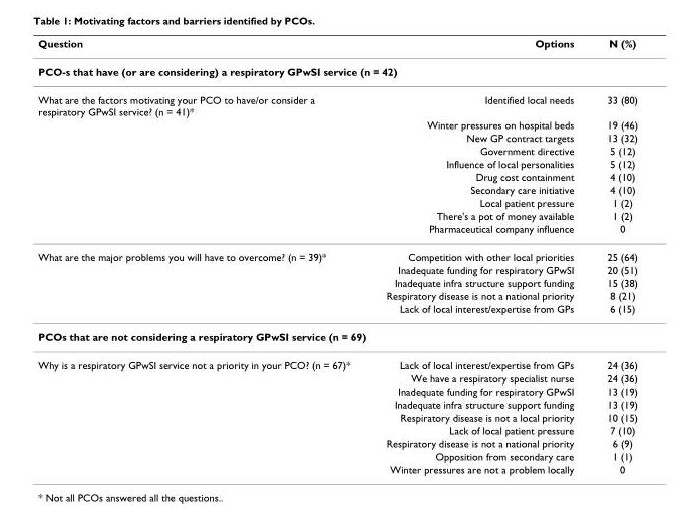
<table><thead><tr><td>Question</td><td>Options</td><td>N (%)</td></tr></thead><tbody><tr><td colspan="3">PCO-s that have (or are considering) a respiratory GPwSI service (n = 42)</td></tr><tr><td rowspan="10">What are the factors motivating your PCO to have/or consider a respiratory GPwSI service? (n = 41)*</td><td>Identified local needs</td><td>33 (80)</td></tr><tr><td>Winter pressures on hospital beds</td><td>19 (46)</td></tr><tr><td>New GP contract targets</td><td>13 (32)</td></tr><tr><td>Government directive</td><td>5 (12)</td></tr><tr><td>Influence of local personalities</td><td>5 (12)</td></tr><tr><td>Drug cost containment</td><td>4 (10)</td></tr><tr><td>Secondary care initiative</td><td>4 (10)</td></tr><tr><td>Local patient pressure</td><td>1 (2)</td></tr><tr><td>There&#x27;s a pot of money available</td><td>1 (2)</td></tr><tr><td>Pharmaceutical company influence</td><td>0</td></tr><tr><td rowspan="5">What are the major problems you will have to overcome? (n = 39)*</td><td>Competition with other local priorities</td><td>25 (64)</td></tr><tr><td>Inadequate funding for respiratory GPwSI</td><td>20 (51)</td></tr><tr><td>Inadequate infra structure support funding</td><td>15 (38)</td></tr><tr><td>Respiratory disease is not a national priority</td><td>8 (21)</td></tr><tr><td>Lack of local interest/expertise from GPs</td><td>6 (15)</td></tr><tr><td colspan="3">PCOs that are not considering a respiratory GPwSI service (n = 69)</td></tr><tr><td rowspan="9">Why is a respiratory GPwSI service not a priority in your PCO? (n = 67)*</td><td>Lack of local interest/expertise from GPs</td><td>24 (36)</td></tr><tr><td>We have a respiratory specialist nurse</td><td>24 (36)</td></tr><tr><td>Inadequate funding for respiratory GPwSI</td><td>13 (19)</td></tr><tr><td>Inadequate infra structure support funding</td><td>13 (19)</td></tr><tr><td>Respiratory disease is not a local priority</td><td>10 (15)</td></tr><tr><td>Lack of local patient pressure</td><td>7 (10)</td></tr><tr><td>Respiratory disease is not a national priority</td><td>6 (9)</td></tr><tr><td>Opposition from secondary care</td><td>1 (1)</td></tr><tr><td>Winter pressures are not a problem locally</td><td>0</td></tr></tbody></table>